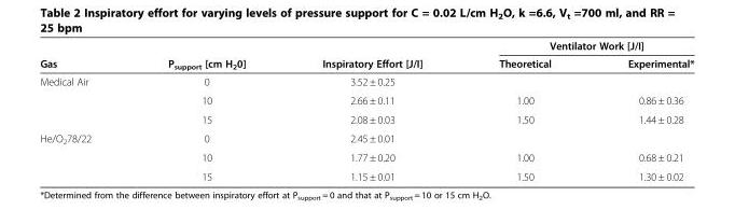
<table><thead><tr><td rowspan="2">Gas</td><td rowspan="2">P<sub>support</sub> [cm H<sub>2</sub>0]</td><td rowspan="2">Inspiratory Effort [J/I]</td><td colspan="2">Ventilator Work [J/I]</td></tr><tr><td>Theoretical</td><td>Experimental*</td></tr></thead><tbody><tr><td rowspan="3">Medical Air</td><td>0</td><td>3.52 ± 0.25</td><td></td><td></td></tr><tr><td>10</td><td>2.66 ± 0.11</td><td>1.00</td><td>0.86 ± 0.36</td></tr><tr><td>15</td><td>2.08 ± 0.03</td><td>1.50</td><td>1.44 ± 0.28</td></tr><tr><td rowspan="3">He/O<sub>2</sub>78/22</td><td>0</td><td>2.45 ± 0.01</td><td></td><td></td></tr><tr><td>10</td><td>1.77 ± 0.20</td><td>1.00</td><td>0.68 ± 0.21</td></tr><tr><td>15</td><td>1.15 ± 0.01</td><td>1.50</td><td>1.30 ± 0.02</td></tr></tbody></table>